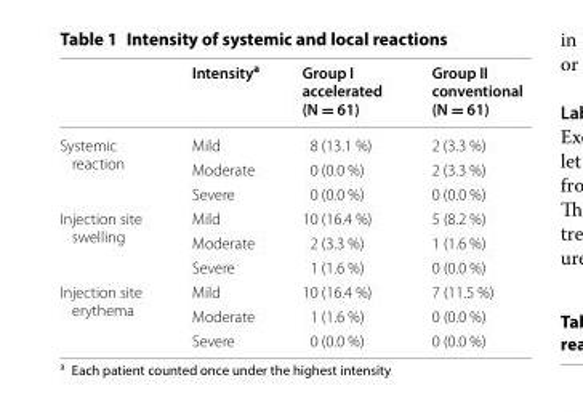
<table><thead><tr><td></td><td>Intensity<sup>a</sup></td><td>Group I accelerated (N = 61)</td><td>Group II conventional (N = 61)</td></tr></thead><tbody><tr><td rowspan="3">Systemic reaction</td><td>Mild</td><td>8 (13.1 %)</td><td>2 (3.3 %)</td></tr><tr><td>Moderate</td><td>0 (0.0 %)</td><td>2 (3.3 %)</td></tr><tr><td>Severe</td><td>0 (0.0 %)</td><td>0 (0.0 %)</td></tr><tr><td rowspan="3">Injection site swelling</td><td>Mild</td><td>10 (16.4 %)</td><td>5 (8.2 %)</td></tr><tr><td>Moderate</td><td>2 (3.3 %)</td><td>1 (1.6 %)</td></tr><tr><td>Severe</td><td>1 (1.6 %)</td><td>0 (0.0 %)</td></tr><tr><td rowspan="3">Injection site erythema</td><td>Mild</td><td>10 (16.4 %)</td><td>7 (11.5 %)</td></tr><tr><td>Moderate</td><td>1 (1.6 %)</td><td>0 (0.0 %)</td></tr><tr><td>Severe</td><td>0 (0.0 %)</td><td>0 (0.0 %)</td></tr></tbody></table>